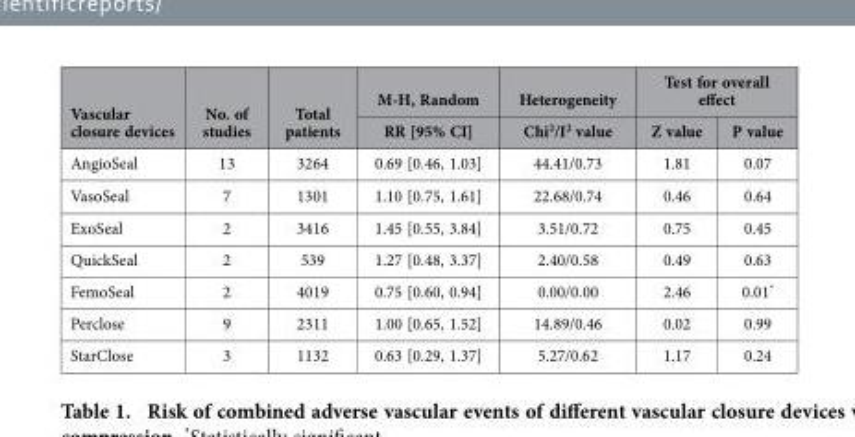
<table><thead><tr><td rowspan="2">Vascular closure devices</td><td rowspan="2">No. of studies</td><td rowspan="2">Total patients</td><td rowspan="2">M-H, Random RR [95% CI]</td><td rowspan="2">Heterogeneity Chi<sup>2</sup>/I<sup>2</sup> value</td><td colspan="2">Test for overall effect</td></tr><tr><td>Z value</td><td>P value</td></tr></thead><tbody><tr><td>AngioSeal</td><td>13</td><td>3264</td><td>0.69 [0.46, 1.03]</td><td>44.41/0.73</td><td>1.81</td><td>0.07</td></tr><tr><td>VasoSeal</td><td>7</td><td>1301</td><td>1.10 [0.75, 1.61]</td><td>22.68/0.74</td><td>0.46</td><td>0.64</td></tr><tr><td>ExoSeal</td><td>2</td><td>3416</td><td>1.45 [0.55, 3.84]</td><td>3.51/0.72</td><td>0.75</td><td>0.45</td></tr><tr><td>QuickSeal</td><td>2</td><td>539</td><td>1.27 [0.48, 3.37]</td><td>2.40/0.58</td><td>0.49</td><td>0.63</td></tr><tr><td>FemoSeal</td><td>2</td><td>4019</td><td>0.75 [0.60, 0.94]</td><td>0.00/0.00</td><td>2.46</td><td>0.01*</td></tr><tr><td>Perclose</td><td>9</td><td>2311</td><td>1.00 [0.65, 1.52]</td><td>14.89/0.46</td><td>0.02</td><td>0.99</td></tr><tr><td>StarClose</td><td>3</td><td>1132</td><td>0.63 [0.29, 1.37]</td><td>5.27/0.62</td><td>1.17</td><td>0.24</td></tr></tbody></table>